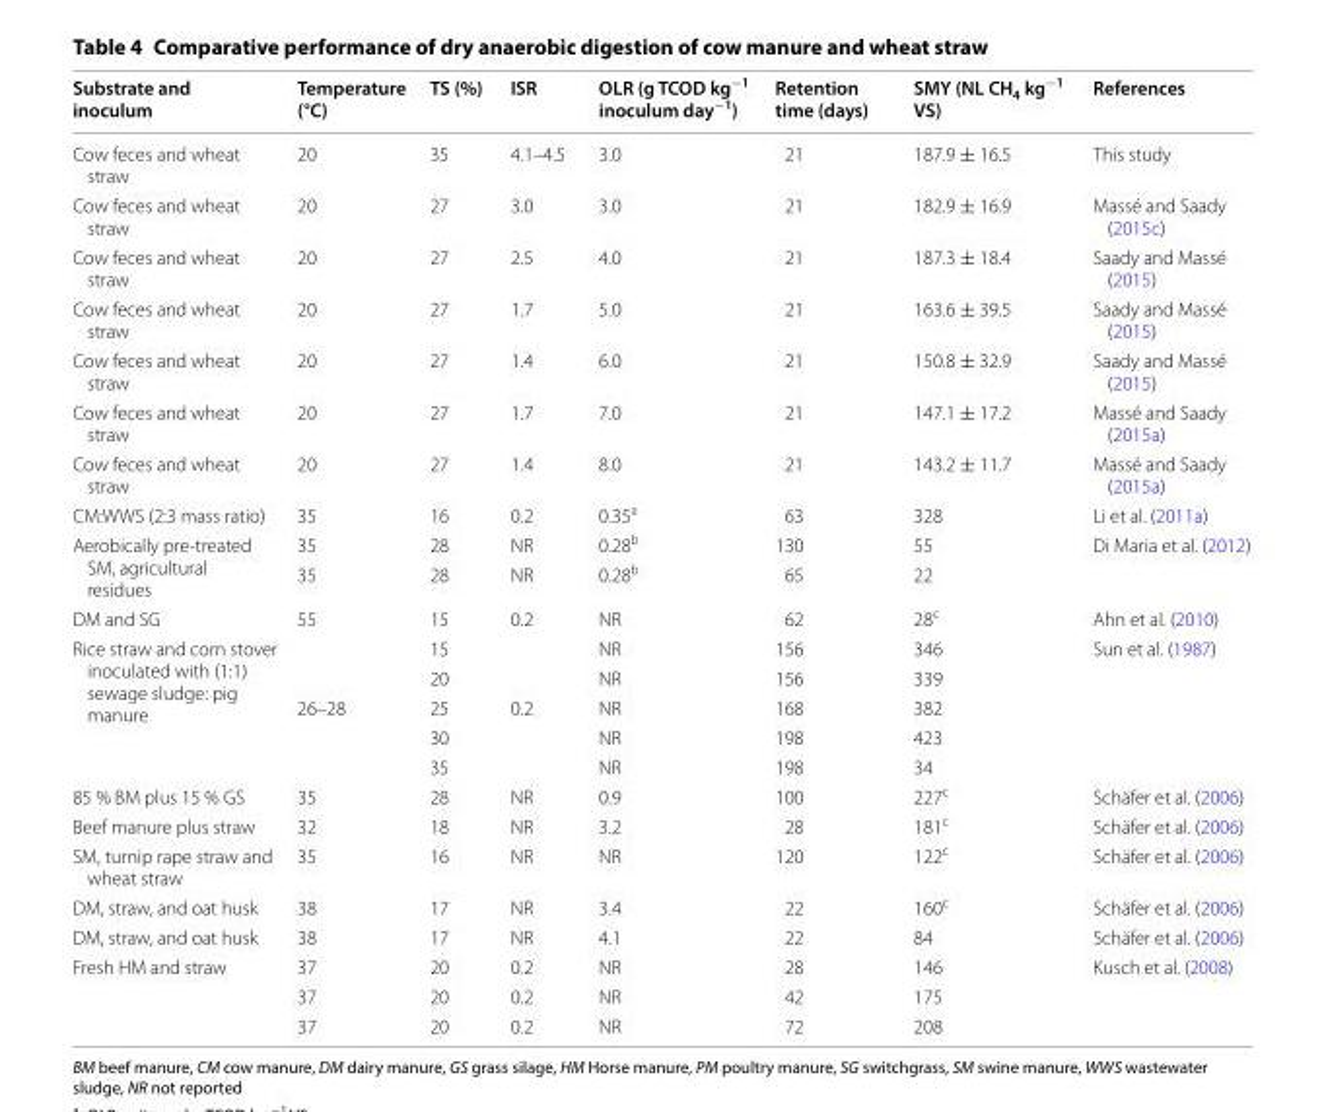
<table><thead><tr><td>Substrate and inoculum</td><td>Temperature (°C)</td><td>TS (%)</td><td>ISR</td><td>OLR (g TCOD kg<sup>−1</sup> inoculum day<sup>−1</sup>)</td><td>Retention time (days)</td><td>SMY (NL CH<sub>4</sub> kg<sup>−1</sup> VS)</td><td>References</td></tr></thead><tbody><tr><td>Cow feces and wheat straw</td><td>20</td><td>35</td><td>4.1–4.5</td><td>3.0</td><td>21</td><td>187.9 ± 16.5</td><td>This study</td></tr><tr><td>Cow feces and wheat straw</td><td>20</td><td>27</td><td>3.0</td><td>3.0</td><td>21</td><td>182.9 ± 16.9</td><td>Massé and Saady (2015c)</td></tr><tr><td>Cow feces and wheat straw</td><td>20</td><td>27</td><td>2.5</td><td>4.0</td><td>21</td><td>187.3 ± 18.4</td><td>Saady and Massé (2015)</td></tr><tr><td>Cow feces and wheat straw</td><td>20</td><td>27</td><td>1.7</td><td>5.0</td><td>21</td><td>163.6 ± 39.5</td><td>Saady and Massé (2015)</td></tr><tr><td>Cow feces and wheat straw</td><td>20</td><td>27</td><td>1.4</td><td>6.0</td><td>21</td><td>150.8 ± 32.9</td><td>Saady and Massé (2015)</td></tr><tr><td>Cow feces and wheat straw</td><td>20</td><td>27</td><td>1.7</td><td>7.0</td><td>21</td><td>147.1 ± 17.2</td><td>Massé and Saady (2015a)</td></tr><tr><td>Cow feces and wheat straw</td><td>20</td><td>27</td><td>1.4</td><td>8.0</td><td>21</td><td>143.2 ± 11.7</td><td>Massé and Saady (2015a)</td></tr><tr><td>CM:WWS (2:3 mass ratio)</td><td>35</td><td>16</td><td>0.2</td><td>0.35<sup>a</sup></td><td>63</td><td>328</td><td>Li et al. (2011a)</td></tr><tr><td rowspan="2">Aerobically pre-treated SM, agricultural residues</td><td>35</td><td>28</td><td>NR</td><td>0.28<sup>b</sup></td><td>130</td><td>55</td><td rowspan="2">Di Maria et al. (2012)</td></tr><tr><td>35</td><td>28</td><td>NR</td><td>0.28<sup>b</sup></td><td>65</td><td>22</td></tr><tr><td>DM and SG</td><td>55</td><td>15</td><td>0.2</td><td>NR</td><td>62</td><td>28<sup>c</sup></td><td>Ahn et al. (2010)</td></tr><tr><td rowspan="5">Rice straw and corn stover inoculated with (1:1) sewage sludge: pig manure</td><td></td><td>15</td><td></td><td>NR</td><td>156</td><td>346</td><td rowspan="5">Sun et al. (1987)</td></tr><tr><td></td><td>20</td><td></td><td>NR</td><td>156</td><td>339</td></tr><tr><td>26–28</td><td>25</td><td>0.2</td><td>NR</td><td>168</td><td>382</td></tr><tr><td></td><td>30</td><td></td><td>NR</td><td>198</td><td>423</td></tr><tr><td></td><td>35</td><td></td><td>NR</td><td>198</td><td>34</td></tr><tr><td>85 % BM plus 15 % GS</td><td>35</td><td>28</td><td>NR</td><td>0.9</td><td>100</td><td>227<sup>c</sup></td><td>Schäfer et al. (2006)</td></tr><tr><td>Beef manure plus straw</td><td>32</td><td>18</td><td>NR</td><td>3.2</td><td>28</td><td>181<sup>c</sup></td><td>Schäfer et al. (2006)</td></tr><tr><td>SM, turnip rape straw and wheat straw</td><td>35</td><td>16</td><td>NR</td><td>NR</td><td>120</td><td>122<sup>c</sup></td><td>Schäfer et al. (2006)</td></tr><tr><td>DM, straw, and oat husk</td><td>38</td><td>17</td><td>NR</td><td>3.4</td><td>22</td><td>160<sup>c</sup></td><td>Schäfer et al. (2006)</td></tr><tr><td>DM, straw, and oat husk</td><td>38</td><td>17</td><td>NR</td><td>4.1</td><td>22</td><td>84</td><td>Schäfer et al. (2006)</td></tr><tr><td rowspan="3">Fresh HM and straw</td><td>37</td><td>20</td><td>0.2</td><td>NR</td><td>28</td><td>146</td><td rowspan="3">Kusch et al. (2008)</td></tr><tr><td>37</td><td>20</td><td>0.2</td><td>NR</td><td>42</td><td>175</td></tr><tr><td>37</td><td>20</td><td>0.2</td><td>NR</td><td>72</td><td>208</td></tr></tbody></table>